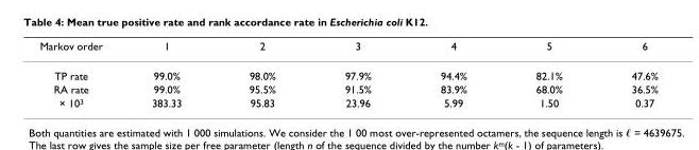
<table><thead><tr><td>Markov order</td><td>1</td><td>2</td><td>3</td><td>4</td><td>5</td><td>6</td></tr></thead><tbody><tr><td>TP rate</td><td>99.0%</td><td>98.0%</td><td>97.9%</td><td>94.4%</td><td>82.1%</td><td>47.6%</td></tr><tr><td>RA rate</td><td>99.0%</td><td>95.5%</td><td>91.5%</td><td>83.9%</td><td>68.0%</td><td>36.5%</td></tr><tr><td>× 10<sup>3</sup></td><td>383.33</td><td>95.83</td><td>23.96</td><td>5.99</td><td>1.50</td><td>0.37</td></tr></tbody></table>